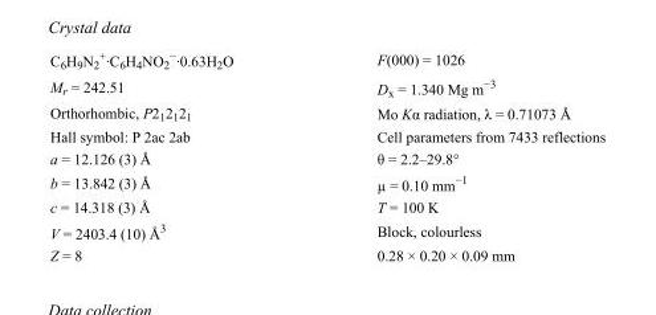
<table><tbody><tr><td>C<sub>6</sub>H<sub>9</sub>N<sub>2</sub> <sup>+</sup>·C<sub>6</sub>H<sub>4</sub>NO<sub>2</sub> <sup>−</sup>·0.63H<sub>2</sub>O</td><td>F(000) = 1026</td></tr><tr><td>M<sub>r</sub> = 242.51</td><td>D<sub>x</sub> = 1.340 Mg m<sup>−3</sup></td></tr><tr><td>Orthorhombic, P2<sub>1</sub>2<sub>1</sub>2<sub>1</sub></td><td>Mo Kα radiation, λ = 0.71073 Å</td></tr><tr><td>Hall symbol: P 2ac 2ab</td><td>Cell parameters from 7433 reflections</td></tr><tr><td>a = 12.126 (3) Å</td><td>θ = 2.2–29.8°</td></tr><tr><td>b = 13.842 (3) Å</td><td>µ = 0.10 mm<sup>−1</sup></td></tr><tr><td>c = 14.318 (3) Å</td><td>T = 100 K</td></tr><tr><td>V = 2403.4 (10) Å<sup>3</sup></td><td>Block, colourless</td></tr><tr><td>Z = 8</td><td>0.28 × 0.20 × 0.09 mm</td></tr></tbody></table>